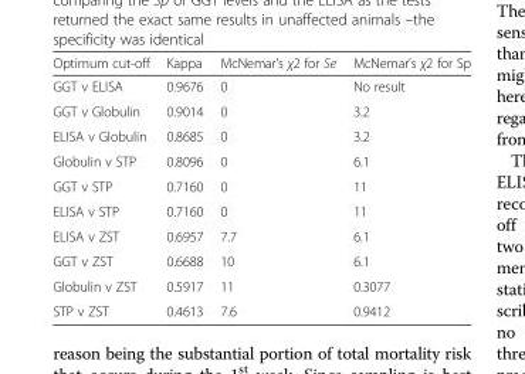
<table><thead><tr><td>Optimum cut-off</td><td>Kappa</td><td>McNemar’s χ2 for Se</td><td>McNemar’s χ2 for Sp</td></tr></thead><tbody><tr><td>GGT v ELISA</td><td>0.9676</td><td>0</td><td>No result</td></tr><tr><td>GGT v Globulin</td><td>0.9014</td><td>0</td><td>3.2</td></tr><tr><td>ELISA v Globulin</td><td>0.8685</td><td>0</td><td>3.2</td></tr><tr><td>Globulin v STP</td><td>0.8096</td><td>0</td><td>6.1</td></tr><tr><td>GGT v STP</td><td>0.7160</td><td>0</td><td>11</td></tr><tr><td>ELISA v STP</td><td>0.7160</td><td>0</td><td>11</td></tr><tr><td>ELISA v ZST</td><td>0.6957</td><td>7.7</td><td>6.1</td></tr><tr><td>GGT v ZST</td><td>0.6688</td><td>10</td><td>6.1</td></tr><tr><td>Globulin v ZST</td><td>0.5917</td><td>11</td><td>0.3077</td></tr><tr><td>STP v ZST</td><td>0.4613</td><td>7.6</td><td>0.9412</td></tr></tbody></table>